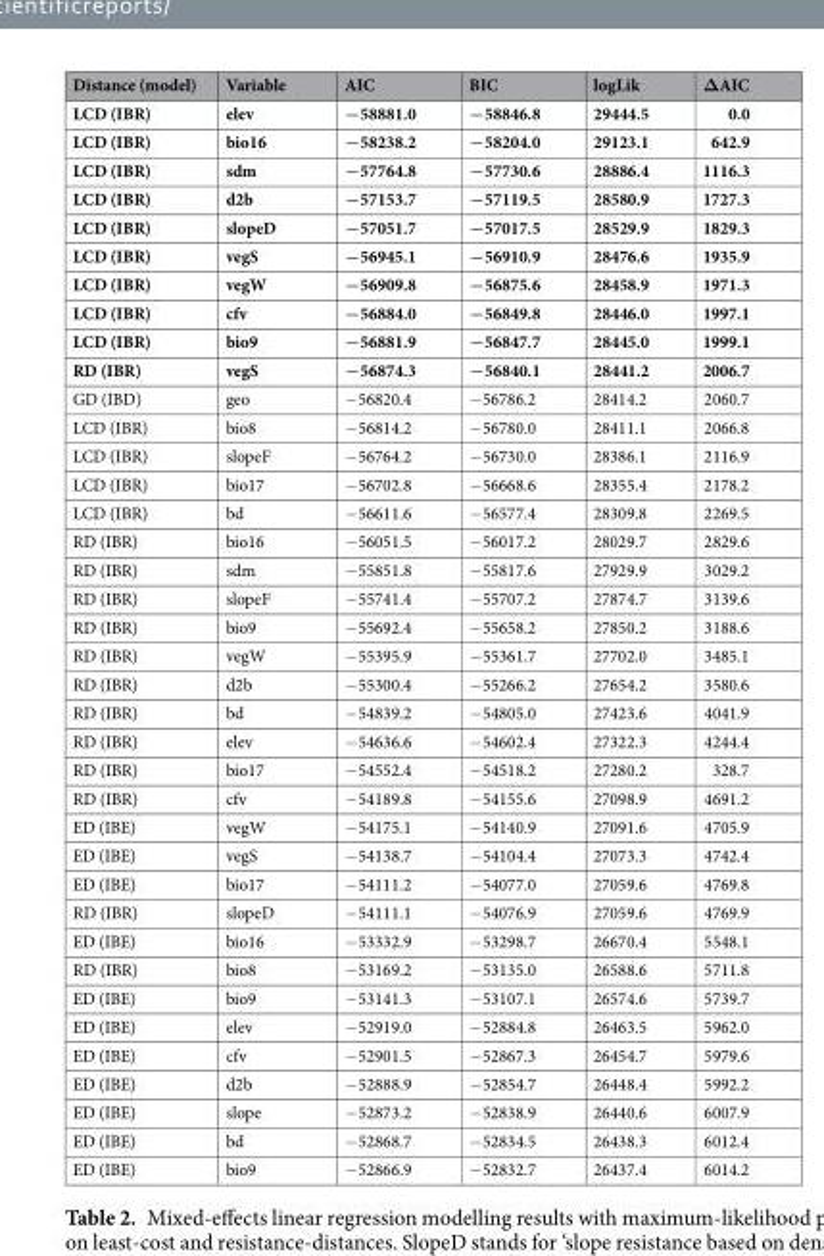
<table><thead><tr><td>Distance (model)</td><td>Variable</td><td>AIC</td><td>BIC</td><td>logLik</td><td>ΔAIC</td></tr></thead><tbody><tr><td>LCD (IBR)</td><td>elev</td><td>−58881.0</td><td>−58846.8</td><td>29444.5</td><td>0.0</td></tr><tr><td>LCD (IBR)</td><td>bio16</td><td>−58238.2</td><td>−58204.0</td><td>29123.1</td><td>642.9</td></tr><tr><td>LCD (IBR)</td><td>sdm</td><td>−57764.8</td><td>−57730.6</td><td>28886.4</td><td>1116.3</td></tr><tr><td>LCD (IBR)</td><td>d2b</td><td>−57153.7</td><td>−57119.5</td><td>28580.9</td><td>1727.3</td></tr><tr><td>LCD (IBR)</td><td>slopeD</td><td>−57051.7</td><td>−57017.5</td><td>28529.9</td><td>1829.3</td></tr><tr><td>LCD (IBR)</td><td>vegS</td><td>−56945.1</td><td>−56910.9</td><td>28476.6</td><td>1935.9</td></tr><tr><td>LCD (IBR)</td><td>vegW</td><td>−56909.8</td><td>−56875.6</td><td>28458.9</td><td>1971.3</td></tr><tr><td>LCD (IBR)</td><td>cfv</td><td>−56884.0</td><td>−56849.8</td><td>28446.0</td><td>1997.1</td></tr><tr><td>LCD (IBR)</td><td>bio9</td><td>−56881.9</td><td>−56847.7</td><td>28445.0</td><td>1999.1</td></tr><tr><td>RD (IBR)</td><td>vegS</td><td>−56874.3</td><td>−56840.1</td><td>28441.2</td><td>2006.7</td></tr><tr><td>GD (IBD)</td><td>geo</td><td>−56820.4</td><td>−56786.2</td><td>28414.2</td><td>2060.7</td></tr><tr><td>LCD (IBR)</td><td>bio8</td><td>−56814.2</td><td>−56780.0</td><td>28411.1</td><td>2066.8</td></tr><tr><td>LCD (IBR)</td><td>slopeF</td><td>−56764.2</td><td>−56730.0</td><td>28386.1</td><td>2116.9</td></tr><tr><td>LCD (IBR)</td><td>bio17</td><td>−56702.8</td><td>−56668.6</td><td>28355.4</td><td>2178.2</td></tr><tr><td>LCD (IBR)</td><td>bd</td><td>−56611.6</td><td>−56577.4</td><td>28309.8</td><td>2269.5</td></tr><tr><td>RD (IBR)</td><td>bio16</td><td>−56051.5</td><td>−56017.2</td><td>28029.7</td><td>2829.6</td></tr><tr><td>RD (IBR)</td><td>sdm</td><td>−55851.8</td><td>−55817.6</td><td>27929.9</td><td>3029.2</td></tr><tr><td>RD (IBR)</td><td>slopeF</td><td>−55741.4</td><td>−55707.2</td><td>27874.7</td><td>3139.6</td></tr><tr><td>RD (IBR)</td><td>bio9</td><td>−55692.4</td><td>−55658.2</td><td>27850.2</td><td>3188.6</td></tr><tr><td>RD (IBR)</td><td>vegW</td><td>−55395.9</td><td>−55361.7</td><td>27702.0</td><td>3485.1</td></tr><tr><td>RD (IBR)</td><td>d2b</td><td>−55300.4</td><td>−55266.2</td><td>27654.2</td><td>3580.6</td></tr><tr><td>RD (IBR)</td><td>bd</td><td>−54839.2</td><td>−54805.0</td><td>27423.6</td><td>4041.9</td></tr><tr><td>RD (IBR)</td><td>elev</td><td>−54636.6</td><td>−54602.4</td><td>27322.3</td><td>4244.4</td></tr><tr><td>RD (IBR)</td><td>bio17</td><td>−54552.4</td><td>−54518.2</td><td>27280.2</td><td>328.7</td></tr><tr><td>RD (IBR)</td><td>cfv</td><td>−54189.8</td><td>−54155.6</td><td>27098.9</td><td>4691.2</td></tr><tr><td>ED (IBE)</td><td>vegW</td><td>−54175.1</td><td>−54140.9</td><td>27091.6</td><td>4705.9</td></tr><tr><td>ED (IBE)</td><td>vegS</td><td>−54138.7</td><td>−54104.4</td><td>27073.3</td><td>4742.4</td></tr><tr><td>ED (IBE)</td><td>bio17</td><td>−54111.2</td><td>−54077.0</td><td>27059.6</td><td>4769.8</td></tr><tr><td>RD (IBR)</td><td>slopeD</td><td>−54111.1</td><td>−54076.9</td><td>27059.6</td><td>4769.9</td></tr><tr><td>ED (IBE)</td><td>bio16</td><td>−53332.9</td><td>−53298.7</td><td>26670.4</td><td>5548.1</td></tr><tr><td>RD (IBR)</td><td>bio8</td><td>−53169.2</td><td>−53135.0</td><td>26588.6</td><td>5711.8</td></tr><tr><td>ED (IBE)</td><td>bio9</td><td>−53141.3</td><td>−53107.1</td><td>26574.6</td><td>5739.7</td></tr><tr><td>ED (IBE)</td><td>elev</td><td>−52919.0</td><td>−52884.8</td><td>26463.5</td><td>5962.0</td></tr><tr><td>ED (IBE)</td><td>cfv</td><td>−52901.5</td><td>−52867.3</td><td>26454.7</td><td>5979.6</td></tr><tr><td>ED (IBE)</td><td>d2b</td><td>−52888.9</td><td>−52854.7</td><td>26448.4</td><td>5992.2</td></tr><tr><td>ED (IBE)</td><td>slope</td><td>−52873.2</td><td>−52838.9</td><td>26440.6</td><td>6007.9</td></tr><tr><td>ED (IBE)</td><td>bd</td><td>−52868.7</td><td>−52834.5</td><td>26438.3</td><td>6012.4</td></tr><tr><td>ED (IBE)</td><td>bio9</td><td>−52866.9</td><td>−52832.7</td><td>26437.4</td><td>6014.2</td></tr></tbody></table>